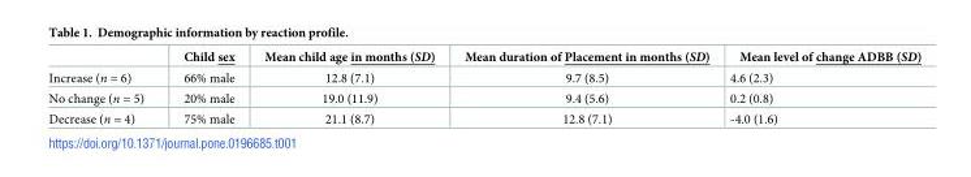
<table><thead><tr><td></td><td>Child sex</td><td>Mean child age in months (SD)</td><td>Mean duration of Placement in months (SD)</td><td>Mean level of change ADBB (SD)</td></tr></thead><tbody><tr><td>Increase (n = 6)</td><td>66% male</td><td>12.8 (7.1)</td><td>9.7 (8.5)</td><td>4.6 (2.3)</td></tr><tr><td>No change (n = 5)</td><td>20% male</td><td>19.0 (11.9)</td><td>9.4 (5.6)</td><td>0.2 (0.8)</td></tr><tr><td>Decrease (n = 4)</td><td>75% male</td><td>21.1 (8.7)</td><td>12.8 (7.1)</td><td>-4.0 (1.6)</td></tr></tbody></table>